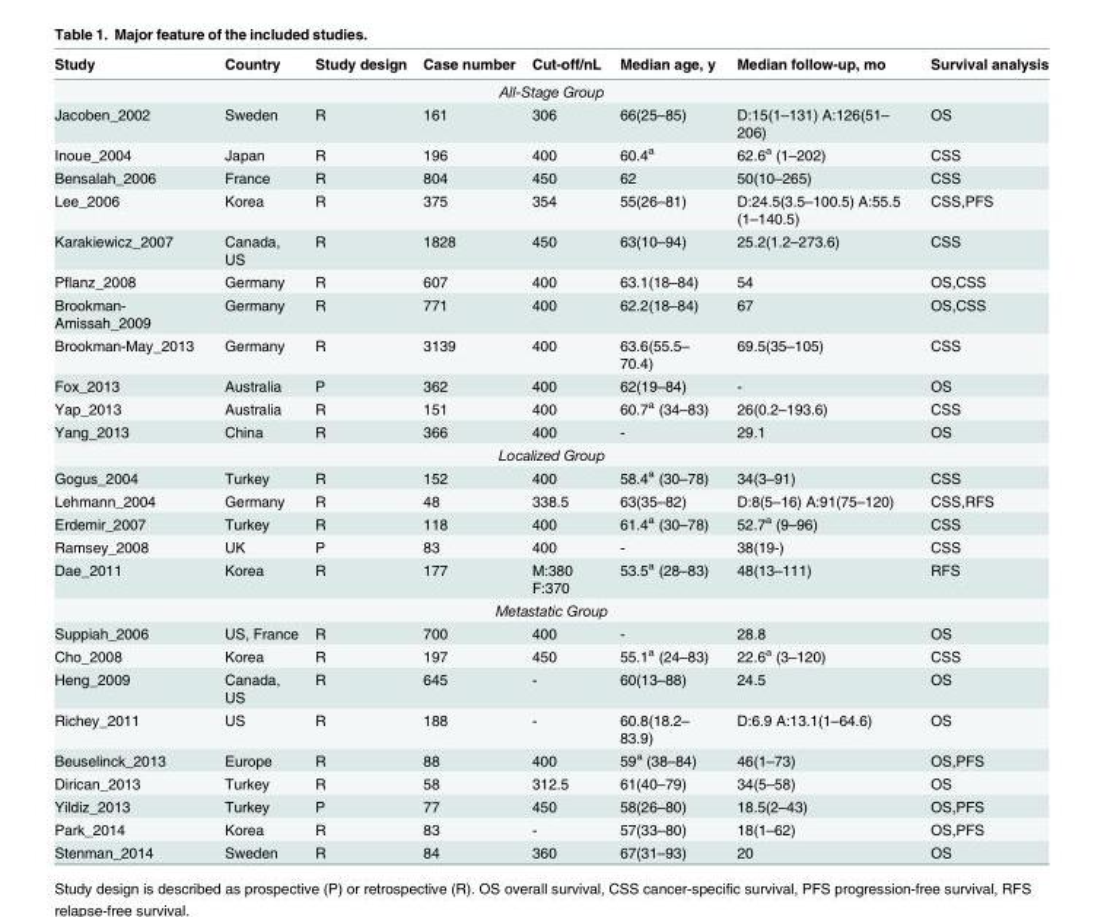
<table><thead><tr><td>Study</td><td>Country</td><td>Study design</td><td>Case number</td><td>Cut-off/nL</td><td>Median age, y</td><td>Median follow-up, mo</td><td>Survival analysis</td></tr></thead><tbody><tr><td colspan="8">All-Stage Group</td></tr><tr><td>Jacoben_2002</td><td>Sweden</td><td>R</td><td>161</td><td>306</td><td>66(25–85)</td><td>D:15(1–131) A:126(51– 206)</td><td>OS</td></tr><tr><td>Inoue_2004</td><td>Japan</td><td>R</td><td>196</td><td>400</td><td>60.4<sup>a</sup></td><td>62.6<sup>a</sup> (1–202)</td><td>CSS</td></tr><tr><td>Bensalah_2006</td><td>France</td><td>R</td><td>804</td><td>450</td><td>62</td><td>50(10–265)</td><td>CSS</td></tr><tr><td>Lee_2006</td><td>Korea</td><td>R</td><td>375</td><td>354</td><td>55(26–81)</td><td>D:24.5(3.5–100.5) A:55.5 (1–140.5)</td><td>CSS,PFS</td></tr><tr><td>Karakiewicz_2007</td><td>Canada, US</td><td>R</td><td>1828</td><td>450</td><td>63(10–94)</td><td>25.2(1.2–273.6)</td><td>CSS</td></tr><tr><td>Pflanz_2008</td><td>Germany</td><td>R</td><td>607</td><td>400</td><td>63.1(18–84)</td><td>54</td><td>OS,CSS</td></tr><tr><td>Brookman- Amissah_2009</td><td>Germany</td><td>R</td><td>771</td><td>400</td><td>62.2(18–84)</td><td>67</td><td>OS,CSS</td></tr><tr><td>Brookman-May_2013</td><td>Germany</td><td>R</td><td>3139</td><td>400</td><td>63.6(55.5– 70.4)</td><td>69.5(35–105)</td><td>CSS</td></tr><tr><td>Fox_2013</td><td>Australia</td><td>P</td><td>362</td><td>400</td><td>62(19–84)</td><td>-</td><td>OS</td></tr><tr><td>Yap_2013</td><td>Australia</td><td>R</td><td>151</td><td>400</td><td>60.7<sup>a</sup> (34–83)</td><td>26(0.2–193.6)</td><td>CSS</td></tr><tr><td>Yang_2013</td><td>China</td><td>R</td><td>366</td><td>400</td><td>-</td><td>29.1</td><td>OS</td></tr><tr><td colspan="8">Localized Group</td></tr><tr><td>Gogus_2004</td><td>Turkey</td><td>R</td><td>152</td><td>400</td><td>58.4<sup>a</sup> (30–78)</td><td>34(3–91)</td><td>CSS</td></tr><tr><td>Lehmann_2004</td><td>Germany</td><td>R</td><td>48</td><td>338.5</td><td>63(35–82)</td><td>D:8(5–16) A:91(75–120)</td><td>CSS,RFS</td></tr><tr><td>Erdemir_2007</td><td>Turkey</td><td>R</td><td>118</td><td>400</td><td>61.4<sup>a</sup> (30–78)</td><td>52.7<sup>a</sup> (9–96)</td><td>CSS</td></tr><tr><td>Ramsey_2008</td><td>UK</td><td>P</td><td>83</td><td>400</td><td>-</td><td>38(19-)</td><td>CSS</td></tr><tr><td>Dae_2011</td><td>Korea</td><td>R</td><td>177</td><td>M:380 F:370</td><td>53.5<sup>a</sup> (28–83)</td><td>48(13–111)</td><td>RFS</td></tr><tr><td colspan="8">Metastatic Group</td></tr><tr><td>Suppiah_2006</td><td>US, France</td><td>R</td><td>700</td><td>400</td><td>-</td><td>28.8</td><td>OS</td></tr><tr><td>Cho_2008</td><td>Korea</td><td>R</td><td>197</td><td>450</td><td>55.1<sup>a</sup> (24–83)</td><td>22.6<sup>a</sup> (3–120)</td><td>CSS</td></tr><tr><td>Heng_2009</td><td>Canada, US</td><td>R</td><td>645</td><td>-</td><td>60(13–88)</td><td>24.5</td><td>OS</td></tr><tr><td>Richey_2011</td><td>US</td><td>R</td><td>188</td><td>-</td><td>60.8(18.2– 83.9)</td><td>D:6.9 A:13.1(1–64.6)</td><td>OS</td></tr><tr><td>Beuselinck_2013</td><td>Europe</td><td>R</td><td>88</td><td>400</td><td>59<sup>a</sup> (38–84)</td><td>46(1–73)</td><td>OS,PFS</td></tr><tr><td>Dirican_2013</td><td>Turkey</td><td>R</td><td>58</td><td>312.5</td><td>61(40–79)</td><td>34(5–58)</td><td>OS</td></tr><tr><td>Yildiz_2013</td><td>Turkey</td><td>P</td><td>77</td><td>450</td><td>58(26–80)</td><td>18.5(2–43)</td><td>OS,PFS</td></tr><tr><td>Park_2014</td><td>Korea</td><td>R</td><td>83</td><td>-</td><td>57(33–80)</td><td>18(1–62)</td><td>OS,PFS</td></tr><tr><td>Stenman_2014</td><td>Sweden</td><td>R</td><td>84</td><td>360</td><td>67(31–93)</td><td>20</td><td>OS</td></tr></tbody></table>